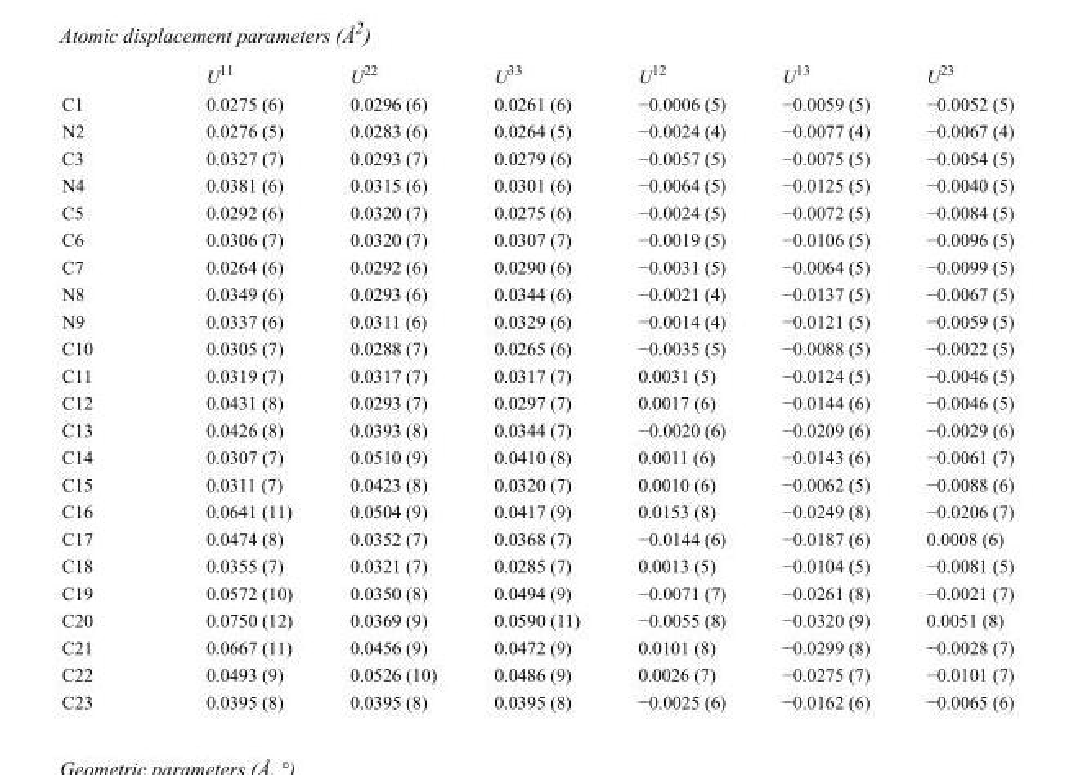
<table><thead><tr><td></td><td>U<sup>11</sup></td><td>U<sup>22</sup></td><td>U<sup>33</sup></td><td>U<sup>12</sup></td><td>U<sup>13</sup></td><td>U<sup>23</sup></td></tr></thead><tbody><tr><td>C1</td><td>0.0275 (6)</td><td>0.0296 (6)</td><td>0.0261 (6)</td><td>−0.0006 (5)</td><td>−0.0059 (5)</td><td>−0.0052 (5)</td></tr><tr><td>N2</td><td>0.0276 (5)</td><td>0.0283 (6)</td><td>0.0264 (5)</td><td>−0.0024 (4)</td><td>−0.0077 (4)</td><td>−0.0067 (4)</td></tr><tr><td>C3</td><td>0.0327 (7)</td><td>0.0293 (7)</td><td>0.0279 (6)</td><td>−0.0057 (5)</td><td>−0.0075 (5)</td><td>−0.0054 (5)</td></tr><tr><td>N4</td><td>0.0381 (6)</td><td>0.0315 (6)</td><td>0.0301 (6)</td><td>−0.0064 (5)</td><td>−0.0125 (5)</td><td>−0.0040 (5)</td></tr><tr><td>C5</td><td>0.0292 (6)</td><td>0.0320 (7)</td><td>0.0275 (6)</td><td>−0.0024 (5)</td><td>−0.0072 (5)</td><td>−0.0084 (5)</td></tr><tr><td>C6</td><td>0.0306 (7)</td><td>0.0320 (7)</td><td>0.0307 (7)</td><td>−0.0019 (5)</td><td>−0.0106 (5)</td><td>−0.0096 (5)</td></tr><tr><td>C7</td><td>0.0264 (6)</td><td>0.0292 (6)</td><td>0.0290 (6)</td><td>−0.0031 (5)</td><td>−0.0064 (5)</td><td>−0.0099 (5)</td></tr><tr><td>N8</td><td>0.0349 (6)</td><td>0.0293 (6)</td><td>0.0344 (6)</td><td>−0.0021 (4)</td><td>−0.0137 (5)</td><td>−0.0067 (5)</td></tr><tr><td>N9</td><td>0.0337 (6)</td><td>0.0311 (6)</td><td>0.0329 (6)</td><td>−0.0014 (4)</td><td>−0.0121 (5)</td><td>−0.0059 (5)</td></tr><tr><td>C10</td><td>0.0305 (7)</td><td>0.0288 (7)</td><td>0.0265 (6)</td><td>−0.0035 (5)</td><td>−0.0088 (5)</td><td>−0.0022 (5)</td></tr><tr><td>C11</td><td>0.0319 (7)</td><td>0.0317 (7)</td><td>0.0317 (7)</td><td>0.0031 (5)</td><td>−0.0124 (5)</td><td>−0.0046 (5)</td></tr><tr><td>C12</td><td>0.0431 (8)</td><td>0.0293 (7)</td><td>0.0297 (7)</td><td>0.0017 (6)</td><td>−0.0144 (6)</td><td>−0.0046 (5)</td></tr><tr><td>C13</td><td>0.0426 (8)</td><td>0.0393 (8)</td><td>0.0344 (7)</td><td>−0.0020 (6)</td><td>−0.0209 (6)</td><td>−0.0029 (6)</td></tr><tr><td>C14</td><td>0.0307 (7)</td><td>0.0510 (9)</td><td>0.0410 (8)</td><td>0.0011 (6)</td><td>−0.0143 (6)</td><td>−0.0061 (7)</td></tr><tr><td>C15</td><td>0.0311 (7)</td><td>0.0423 (8)</td><td>0.0320 (7)</td><td>0.0010 (6)</td><td>−0.0062 (5)</td><td>−0.0088 (6)</td></tr><tr><td>C16</td><td>0.0641 (11)</td><td>0.0504 (9)</td><td>0.0417 (9)</td><td>0.0153 (8)</td><td>−0.0249 (8)</td><td>−0.0206 (7)</td></tr><tr><td>C17</td><td>0.0474 (8)</td><td>0.0352 (7)</td><td>0.0368 (7)</td><td>−0.0144 (6)</td><td>−0.0187 (6)</td><td>0.0008 (6)</td></tr><tr><td>C18</td><td>0.0355 (7)</td><td>0.0321 (7)</td><td>0.0285 (7)</td><td>0.0013 (5)</td><td>−0.0104 (5)</td><td>−0.0081 (5)</td></tr><tr><td>C19</td><td>0.0572 (10)</td><td>0.0350 (8)</td><td>0.0494 (9)</td><td>−0.0071 (7)</td><td>−0.0261 (8)</td><td>−0.0021 (7)</td></tr><tr><td>C20</td><td>0.0750 (12)</td><td>0.0369 (9)</td><td>0.0590 (11)</td><td>−0.0055 (8)</td><td>−0.0320 (9)</td><td>0.0051 (8)</td></tr><tr><td>C21</td><td>0.0667 (11)</td><td>0.0456 (9)</td><td>0.0472 (9)</td><td>0.0101 (8)</td><td>−0.0299 (8)</td><td>−0.0028 (7)</td></tr><tr><td>C22</td><td>0.0493 (9)</td><td>0.0526 (10)</td><td>0.0486 (9)</td><td>0.0026 (7)</td><td>−0.0275 (7)</td><td>−0.0101 (7)</td></tr><tr><td>C23</td><td>0.0395 (8)</td><td>0.0395 (8)</td><td>0.0395 (8)</td><td>−0.0025 (6)</td><td>−0.0162 (6)</td><td>−0.0065 (6)</td></tr></tbody></table>